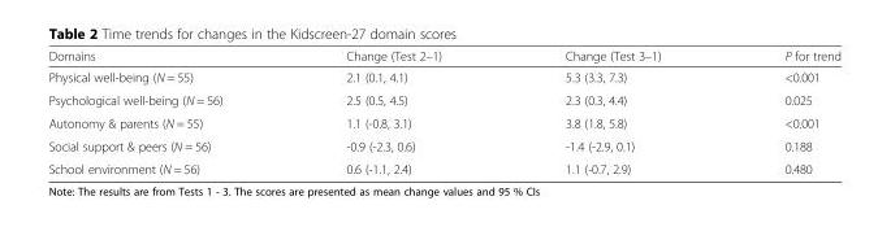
<table><thead><tr><td>Domains</td><td>Change (Test 2–1)</td><td>Change (Test 3–1)</td><td>P for trend</td></tr></thead><tbody><tr><td>Physical well-being (N = 55)</td><td>2.1 (0.1, 4.1)</td><td>5.3 (3.3, 7.3)</td><td>&lt;0.001</td></tr><tr><td>Psychological well-being (N = 56)</td><td>2.5 (0.5, 4.5)</td><td>2.3 (0.3, 4.4)</td><td>0.025</td></tr><tr><td>Autonomy &amp; parents (N = 55)</td><td>1.1 (-0.8, 3.1)</td><td>3.8 (1.8, 5.8)</td><td>&lt;0.001</td></tr><tr><td>Social support &amp; peers (N = 56)</td><td>-0.9 (-2.3, 0.6)</td><td>-1.4 (-2.9, 0.1)</td><td>0.188</td></tr><tr><td>School environment (N = 56)</td><td>0.6 (-1.1, 2.4)</td><td>1.1 (-0.7, 2.9)</td><td>0.480</td></tr></tbody></table>